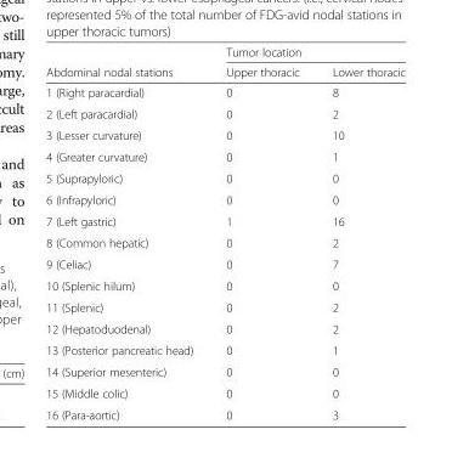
<table><thead><tr><td rowspan="2">Abdominal nodal stations</td><td colspan="2">Tumor location</td></tr><tr><td>Upper thoracic</td><td>Lower thoracic</td></tr></thead><tbody><tr><td>1 (Right paracardial)</td><td>0</td><td>8</td></tr><tr><td>2 (Left paracardial)</td><td>0</td><td>2</td></tr><tr><td>3 (Lesser curvature)</td><td>0</td><td>10</td></tr><tr><td>4 (Greater curvature)</td><td>0</td><td>1</td></tr><tr><td>5 (Suprapyloric)</td><td>0</td><td>0</td></tr><tr><td>6 (Infrapyloric)</td><td>0</td><td>0</td></tr><tr><td>7 (Left gastric)</td><td>1</td><td>16</td></tr><tr><td>8 (Common hepatic)</td><td>0</td><td>2</td></tr><tr><td>9 (Celiac)</td><td>0</td><td>7</td></tr><tr><td>10 (Splenic hilum)</td><td>0</td><td>0</td></tr><tr><td>11 (Splenic)</td><td>0</td><td>2</td></tr><tr><td>12 (Hepatoduodenal)</td><td>0</td><td>2</td></tr><tr><td>13 (Posterior pancreatic head)</td><td>0</td><td>1</td></tr><tr><td>14 (Superior mesenteric)</td><td>0</td><td>0</td></tr><tr><td>15 (Middle colic)</td><td>0</td><td>0</td></tr><tr><td>16 (Para-aortic)</td><td>0</td><td>3</td></tr></tbody></table>